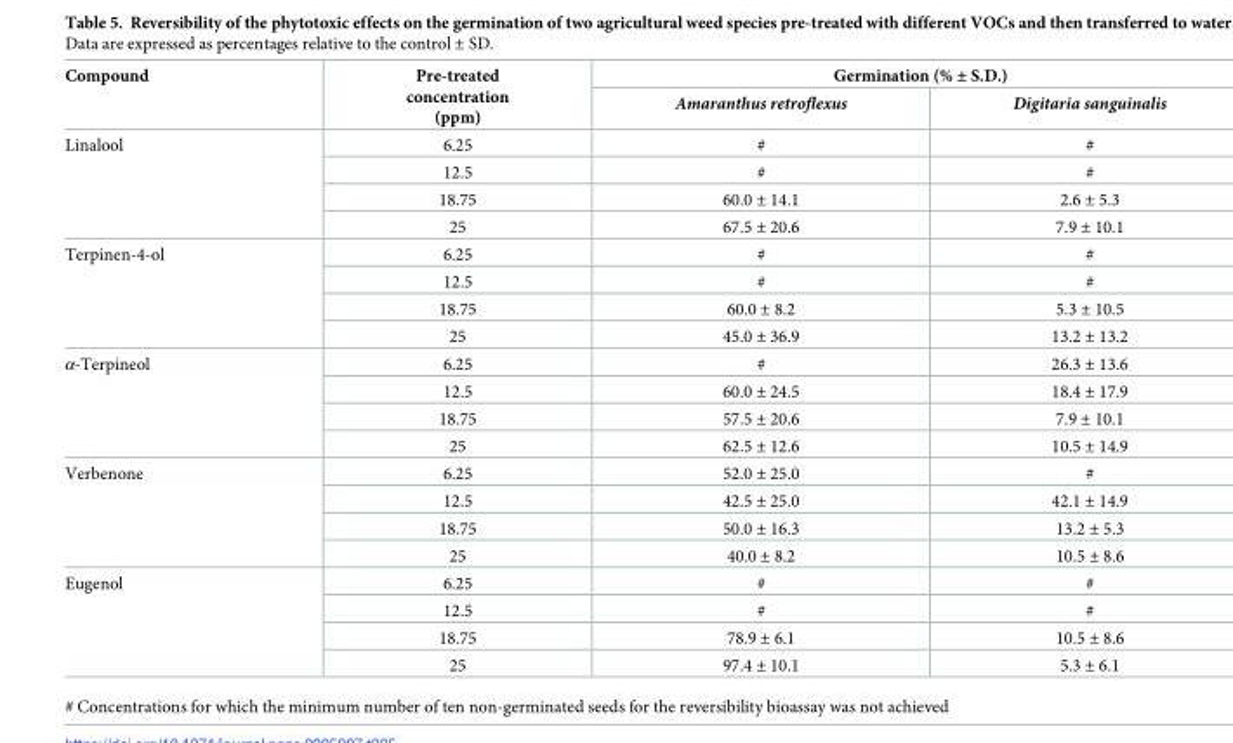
<table><thead><tr><td rowspan="2">Compound</td><td rowspan="2">Pre-treated concentration (ppm)</td><td colspan="2">Germination (% ± S.D.)</td></tr><tr><td>Amaranthus retroflexus</td><td>Digitaria sanguinalis</td></tr></thead><tbody><tr><td rowspan="4">Linalool</td><td>6.25</td><td>#</td><td>#</td></tr><tr><td>12.5</td><td>#</td><td>#</td></tr><tr><td>18.75</td><td>60.0 ± 14.1</td><td>2.6 ± 5.3</td></tr><tr><td>25</td><td>67.5 ± 20.6</td><td>7.9 ± 10.1</td></tr><tr><td rowspan="4">Terpinen-4-ol</td><td>6.25</td><td>#</td><td>#</td></tr><tr><td>12.5</td><td>#</td><td>#</td></tr><tr><td>18.75</td><td>60.0 ± 8.2</td><td>5.3 ± 10.5</td></tr><tr><td>25</td><td>45.0 ± 36.9</td><td>13.2 ± 13.2</td></tr><tr><td rowspan="4">α-Terpineol</td><td>6.25</td><td>#</td><td>26.3 ± 13.6</td></tr><tr><td>12.5</td><td>60.0 ± 24.5</td><td>18.4 ± 17.9</td></tr><tr><td>18.75</td><td>57.5 ± 20.6</td><td>7.9 ± 10.1</td></tr><tr><td>25</td><td>62.5 ± 12.6</td><td>10.5 ± 14.9</td></tr><tr><td rowspan="4">Verbenone</td><td>6.25</td><td>52.0 ± 25.0</td><td>#</td></tr><tr><td>12.5</td><td>42.5 ± 25.0</td><td>42.1 ± 14.9</td></tr><tr><td>18.75</td><td>50.0 ± 16.3</td><td>13.2 ± 5.3</td></tr><tr><td>25</td><td>40.0 ± 8.2</td><td>10.5 ± 8.6</td></tr><tr><td rowspan="4">Eugenol</td><td>6.25</td><td>#</td><td>#</td></tr><tr><td>12.5</td><td>#</td><td>#</td></tr><tr><td>18.75</td><td>78.9 ± 6.1</td><td>10.5 ± 8.6</td></tr><tr><td>25</td><td>97.4 ± 10.1</td><td>5.3 ± 6.1</td></tr></tbody></table>